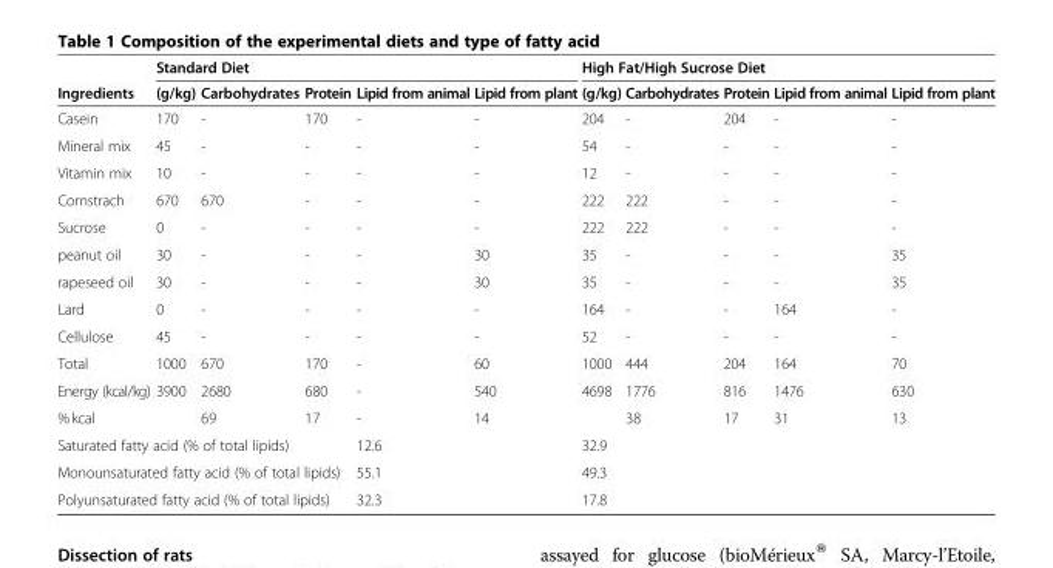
<table><thead><tr><td rowspan="2">Ingredients</td><td colspan="5">Standard Diet</td><td colspan="5">High Fat/High Sucrose Diet</td></tr><tr><td>(g/kg)</td><td>Carbohydrates</td><td>Protein</td><td>Lipid from animal</td><td>Lipid from plant</td><td>(g/kg)</td><td>Carbohydrates</td><td>Protein</td><td>Lipid from animal</td><td>Lipid from plant</td></tr></thead><tbody><tr><td>Casein</td><td>170</td><td>-</td><td>170</td><td>-</td><td>-</td><td>204</td><td>-</td><td>204</td><td>-</td><td>-</td></tr><tr><td>Mineral mix</td><td>45</td><td>-</td><td>-</td><td>-</td><td>-</td><td>54</td><td>-</td><td>-</td><td>-</td><td>-</td></tr><tr><td>Vitamin mix</td><td>10</td><td>-</td><td>-</td><td>-</td><td>-</td><td>12</td><td>-</td><td>-</td><td>-</td><td>-</td></tr><tr><td>Cornstrach</td><td>670</td><td>670</td><td>-</td><td>-</td><td>-</td><td>222</td><td>222</td><td>-</td><td>-</td><td>-</td></tr><tr><td>Sucrose</td><td>0</td><td>-</td><td>-</td><td>-</td><td>-</td><td>222</td><td>222</td><td>-</td><td>-</td><td>-</td></tr><tr><td>peanut oil</td><td>30</td><td>-</td><td>-</td><td>-</td><td>30</td><td>35</td><td>-</td><td>-</td><td>-</td><td>35</td></tr><tr><td>rapeseed oil</td><td>30</td><td>-</td><td>-</td><td>-</td><td>30</td><td>35</td><td>-</td><td>-</td><td>-</td><td>35</td></tr><tr><td>Lard</td><td>0</td><td>-</td><td>-</td><td>-</td><td>-</td><td>164</td><td>-</td><td>-</td><td>164</td><td>-</td></tr><tr><td>Cellulose</td><td>45</td><td>-</td><td>-</td><td>-</td><td>-</td><td>52</td><td>-</td><td>-</td><td>-</td><td>-</td></tr><tr><td>Total</td><td>1000</td><td>670</td><td>170</td><td>-</td><td>60</td><td>1000</td><td>444</td><td>204</td><td>164</td><td>70</td></tr><tr><td>Energy (kcal/kg)</td><td>3900</td><td>2680</td><td>680</td><td>-</td><td>540</td><td>4698</td><td>1776</td><td>816</td><td>1476</td><td>630</td></tr><tr><td>% kcal</td><td></td><td>69</td><td>17</td><td>-</td><td>14</td><td></td><td>38</td><td>17</td><td>31</td><td>13</td></tr><tr><td colspan="4">Saturated fatty acid (% of total lipids)</td><td colspan="2">12.6</td><td colspan="5">32.9</td></tr><tr><td colspan="4">Monounsaturated fatty acid (% of total lipids)</td><td colspan="2">55.1</td><td colspan="5">49.3</td></tr><tr><td colspan="4">Polyunsaturated fatty acid (% of total lipids)</td><td colspan="2">32.3</td><td colspan="5">17.8</td></tr></tbody></table>